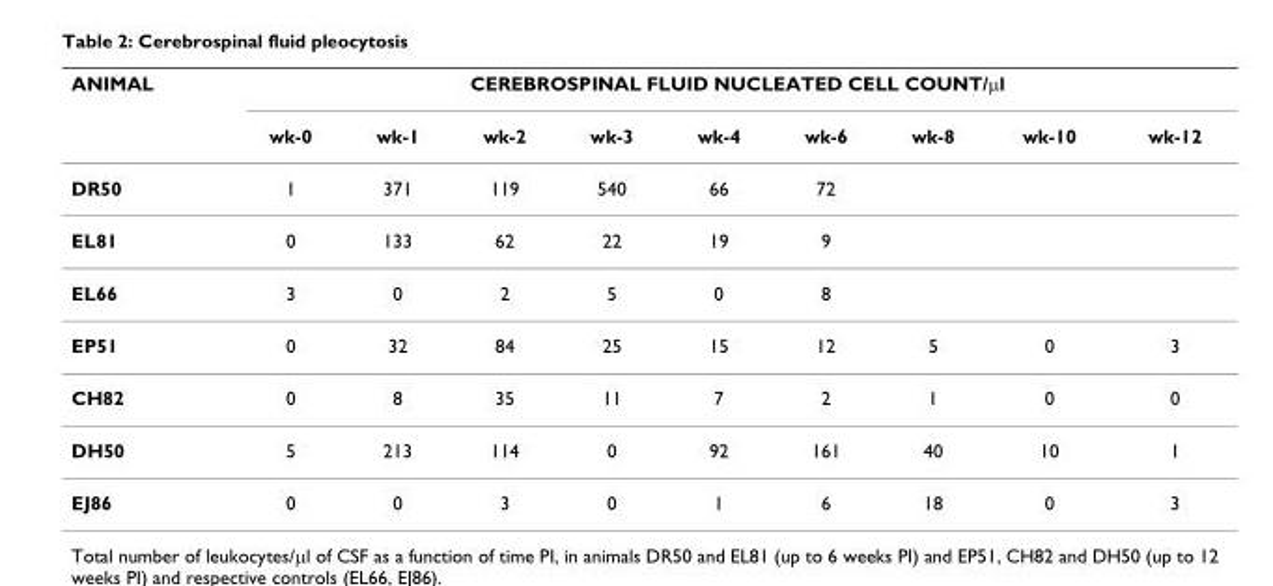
<table><thead><tr><td rowspan="2">ANIMAL</td><td colspan="9">CEREBROSPINAL FLUID NUCLEATED CELL COUNT/μl</td></tr><tr><td>wk-0</td><td>wk-1</td><td>wk-2</td><td>wk-3</td><td>wk-4</td><td>wk-6</td><td>wk-8</td><td>wk-10</td><td>wk-12</td></tr></thead><tbody><tr><td>DR50</td><td>1</td><td>371</td><td>119</td><td>540</td><td>66</td><td>72</td><td></td><td></td><td></td></tr><tr><td>EL81</td><td>0</td><td>133</td><td>62</td><td>22</td><td>19</td><td>9</td><td></td><td></td><td></td></tr><tr><td>EL66</td><td>3</td><td>0</td><td>2</td><td>5</td><td>0</td><td>8</td><td></td><td></td><td></td></tr><tr><td>EP51</td><td>0</td><td>32</td><td>84</td><td>25</td><td>15</td><td>12</td><td>5</td><td>0</td><td>3</td></tr><tr><td>CH82</td><td>0</td><td>8</td><td>35</td><td>11</td><td>7</td><td>2</td><td>1</td><td>0</td><td>0</td></tr><tr><td>DH50</td><td>5</td><td>213</td><td>114</td><td>0</td><td>92</td><td>161</td><td>40</td><td>10</td><td>1</td></tr><tr><td>EJ86</td><td>0</td><td>0</td><td>3</td><td>0</td><td>1</td><td>6</td><td>18</td><td>0</td><td>3</td></tr></tbody></table>